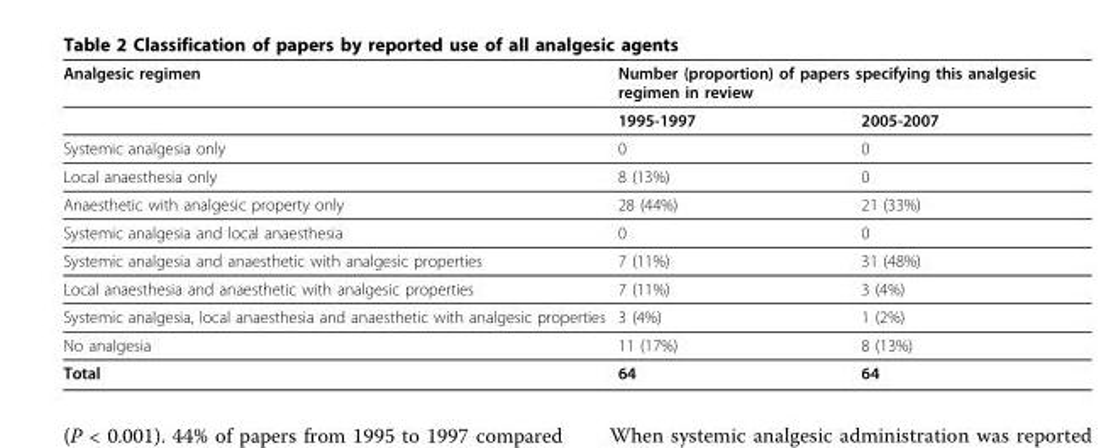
<table><thead><tr><td rowspan="2">Analgesic regimen</td><td colspan="2">Number (proportion) of papers specifying this analgesic regimen in review</td></tr><tr><td>1995-1997</td><td>2005-2007</td></tr></thead><tbody><tr><td>Systemic analgesia only</td><td>0</td><td>0</td></tr><tr><td>Local anaesthesia only</td><td>8 (13%)</td><td>0</td></tr><tr><td>Anaesthetic with analgesic property only</td><td>28 (44%)</td><td>21 (33%)</td></tr><tr><td>Systemic analgesia and local anaesthesia</td><td>0</td><td>0</td></tr><tr><td>Systemic analgesia and anaesthetic with analgesic properties</td><td>7 (11%)</td><td>31 (48%)</td></tr><tr><td>Local anaesthesia and anaesthetic with analgesic properties</td><td>7 (11%)</td><td>3 (4%)</td></tr><tr><td>Systemic analgesia, local anaesthesia and anaesthetic with analgesic properties</td><td>3 (4%)</td><td>1 (2%)</td></tr><tr><td>No analgesia</td><td>11 (17%)</td><td>8 (13%)</td></tr><tr><td>Total</td><td>64</td><td>64</td></tr></tbody></table>